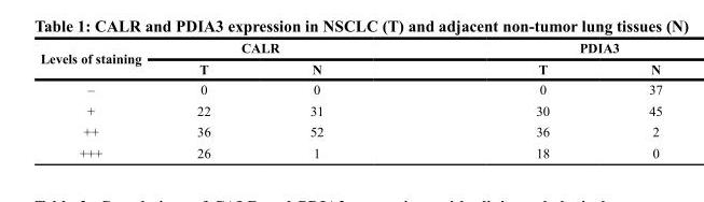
<table><thead><tr><td rowspan="2">Levels of staining</td><td colspan="2">CALR</td><td colspan="2">PDIA3</td></tr><tr><td>T</td><td>N</td><td>T</td><td>N</td></tr></thead><tbody><tr><td>–</td><td>0</td><td>0</td><td>0</td><td>37</td></tr><tr><td>+</td><td>22</td><td>31</td><td>30</td><td>45</td></tr><tr><td>++</td><td>36</td><td>52</td><td>36</td><td>2</td></tr><tr><td>+++</td><td>26</td><td>1</td><td>18</td><td>0</td></tr></tbody></table>